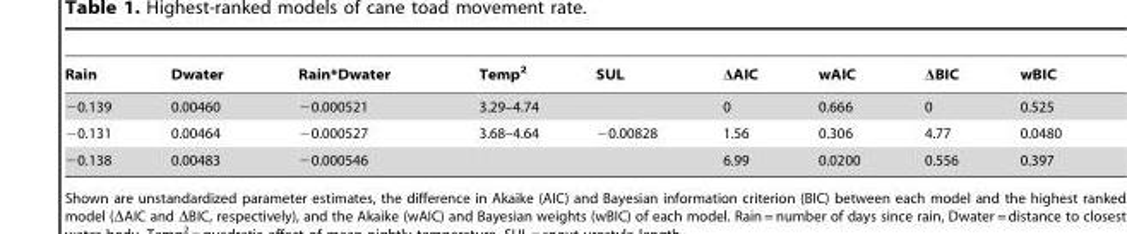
<table><thead><tr><td>Rain</td><td>Dwater</td><td>Rain*Dwater</td><td>Temp<sup>2</sup></td><td>SUL</td><td>ΔAIC</td><td>wAIC</td><td>ΔBIC</td><td>wBIC</td></tr></thead><tbody><tr><td>−0.139</td><td>0.00460</td><td>−0.000521</td><td>3.29–4.74</td><td></td><td>0</td><td>0.666</td><td>0</td><td>0.525</td></tr><tr><td>−0.131</td><td>0.00464</td><td>−0.000527</td><td>3.68–4.64</td><td>−0.00828</td><td>1.56</td><td>0.306</td><td>4.77</td><td>0.0480</td></tr><tr><td>−0.138</td><td>0.00483</td><td>−0.000546</td><td></td><td></td><td>6.99</td><td>0.0200</td><td>0.556</td><td>0.397</td></tr></tbody></table>